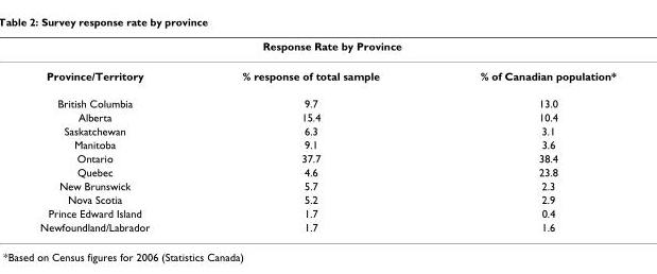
<table><thead><tr><td colspan="3">Response Rate by Province</td></tr><tr><td>Province/Territory</td><td>% response of total sample</td><td>% of Canadian population*</td></tr></thead><tbody><tr><td>British Columbia</td><td>9.7</td><td>13.0</td></tr><tr><td>Alberta</td><td>15.4</td><td>10.4</td></tr><tr><td>Saskatchewan</td><td>6.3</td><td>3.1</td></tr><tr><td>Manitoba</td><td>9.1</td><td>3.6</td></tr><tr><td>Ontario</td><td>37.7</td><td>38.4</td></tr><tr><td>Quebec</td><td>4.6</td><td>23.8</td></tr><tr><td>New Brunswick</td><td>5.7</td><td>2.3</td></tr><tr><td>Nova Scotia</td><td>5.2</td><td>2.9</td></tr><tr><td>Prince Edward Island</td><td>1.7</td><td>0.4</td></tr><tr><td>Newfoundland/Labrador</td><td>1.7</td><td>1.6</td></tr></tbody></table>